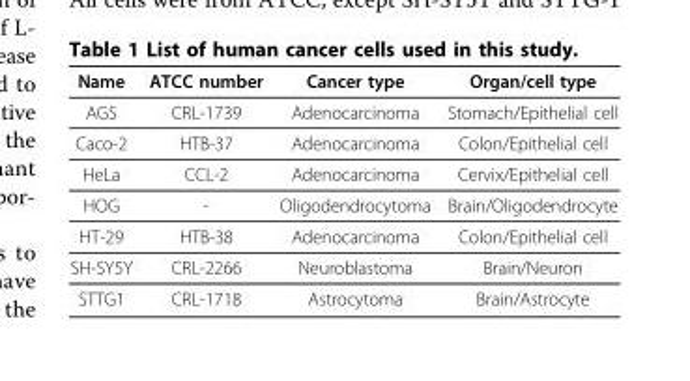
<table><thead><tr><td>Name</td><td>ATCC number</td><td>Cancer type</td><td>Organ/cell type</td></tr></thead><tbody><tr><td>AGS</td><td>CRL-1739</td><td>Adenocarcinoma</td><td>Stomach/Epithelial cell</td></tr><tr><td>Caco-2</td><td>HTB-37</td><td>Adenocarcinoma</td><td>Colon/Epithelial cell</td></tr><tr><td>HeLa</td><td>CCL-2</td><td>Adenocarcinoma</td><td>Cervix/Epithelial cell</td></tr><tr><td>HOG</td><td>-</td><td>Oligodendrocytoma</td><td>Brain/Oligodendrocyte</td></tr><tr><td>HT-29</td><td>HTB-38</td><td>Adenocarcinoma</td><td>Colon/Epithelial cell</td></tr><tr><td>SH-SY5Y</td><td>CRL-2266</td><td>Neuroblastoma</td><td>Brain/Neuron</td></tr><tr><td>STTG1</td><td>CRL-1718</td><td>Astrocytoma</td><td>Brain/Astrocyte</td></tr></tbody></table>